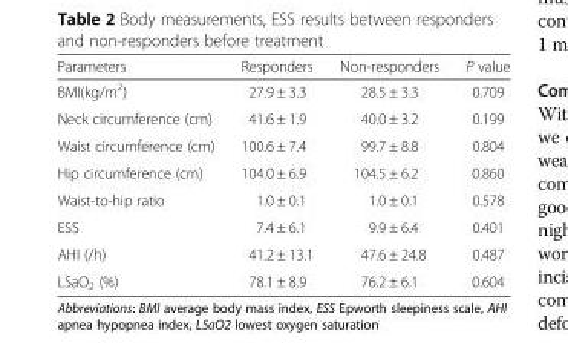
<table><thead><tr><td>Parameters</td><td>Responders</td><td>Non-responders</td><td>P value</td></tr></thead><tbody><tr><td>BMI(kg/m<sup>2</sup>)</td><td>27.9 ± 3.3</td><td>28.5 ± 3.3</td><td>0.709</td></tr><tr><td>Neck circumference (cm)</td><td>41.6 ± 1.9</td><td>40.0 ± 3.2</td><td>0.199</td></tr><tr><td>Waist circumference (cm)</td><td>100.6 ± 7.4</td><td>99.7 ± 8.8</td><td>0.804</td></tr><tr><td>Hip circumference (cm)</td><td>104.0 ± 6.9</td><td>104.5 ± 6.2</td><td>0.860</td></tr><tr><td>Waist-to-hip ratio</td><td>1.0 ± 0.1</td><td>1.0 ± 0.1</td><td>0.578</td></tr><tr><td>ESS</td><td>7.4 ± 6.1</td><td>9.9 ± 6.4</td><td>0.401</td></tr><tr><td>AHI (/h)</td><td>41.2 ± 13.1</td><td>47.6 ± 24.8</td><td>0.487</td></tr><tr><td>LSaO<sub>2</sub> (%)</td><td>78.1 ± 8.9</td><td>76.2 ± 6.1</td><td>0.604</td></tr></tbody></table>